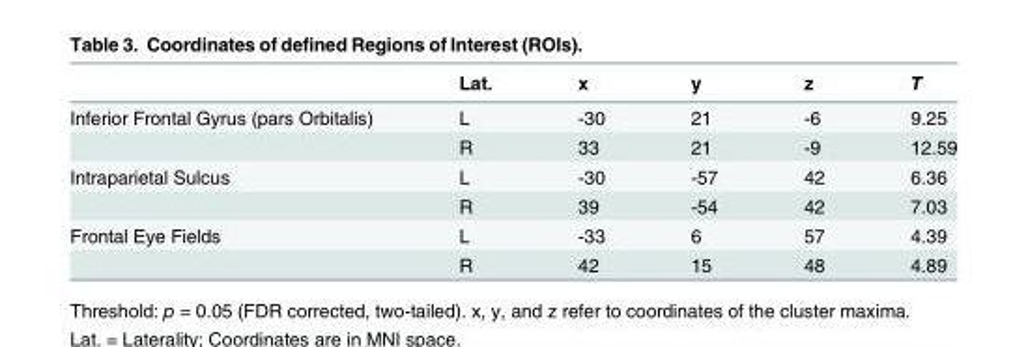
<table><thead><tr><td></td><td>Lat.</td><td>x</td><td>y</td><td>z</td><td>T</td></tr></thead><tbody><tr><td rowspan="2">Inferior Frontal Gyrus (pars Orbitalis)</td><td>L</td><td>-30</td><td>21</td><td>-6</td><td>9.25</td></tr><tr><td>R</td><td>33</td><td>21</td><td>-9</td><td>12.59</td></tr><tr><td rowspan="2">Intraparietal Sulcus</td><td>L</td><td>-30</td><td>-57</td><td>42</td><td>6.36</td></tr><tr><td>R</td><td>39</td><td>-54</td><td>42</td><td>7.03</td></tr><tr><td rowspan="2">Frontal Eye Fields</td><td>L</td><td>-33</td><td>6</td><td>57</td><td>4.39</td></tr><tr><td>R</td><td>42</td><td>15</td><td>48</td><td>4.89</td></tr></tbody></table>